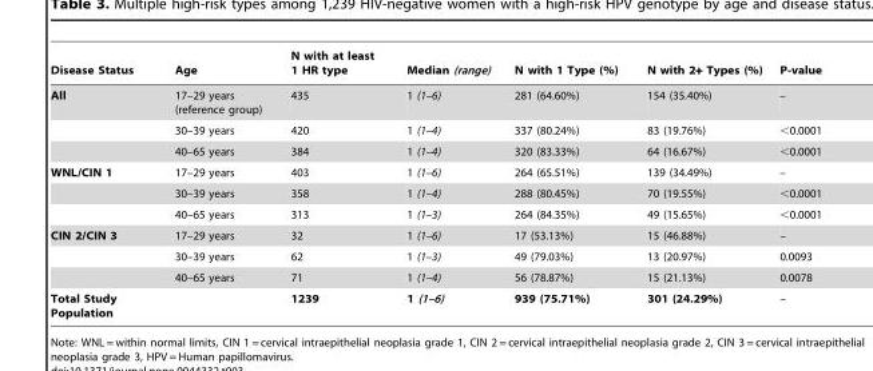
<table><thead><tr><td>Disease Status</td><td>Age</td><td>N with at least 1 HR type</td><td>Median (range)</td><td>N with 1 Type (%)</td><td>N with 2+ Types (%)</td><td>P-value</td></tr></thead><tbody><tr><td rowspan="3">All</td><td>17–29 years (reference group)</td><td>435</td><td>1 (1–6)</td><td>281 (64.60%)</td><td>154 (35.40%)</td><td>–</td></tr><tr><td>30–39 years</td><td>420</td><td>1 (1–4)</td><td>337 (80.24%)</td><td>83 (19.76%)</td><td>&lt;0.0001</td></tr><tr><td>40–65 years</td><td>384</td><td>1 (1–4)</td><td>320 (83.33%)</td><td>64 (16.67%)</td><td>&lt;0.0001</td></tr><tr><td rowspan="3">WNL/CIN 1</td><td>17–29 years</td><td>403</td><td>1 (1–6)</td><td>264 (65.51%)</td><td>139 (34.49%)</td><td>–</td></tr><tr><td>30–39 years</td><td>358</td><td>1 (1–4)</td><td>288 (80.45%)</td><td>70 (19.55%)</td><td>&lt;0.0001</td></tr><tr><td>40–65 years</td><td>313</td><td>1 (1–3)</td><td>264 (84.35%)</td><td>49 (15.65%)</td><td>&lt;0.0001</td></tr><tr><td rowspan="3">CIN 2/CIN 3</td><td>17–29 years</td><td>32</td><td>1 (1–6)</td><td>17 (53.13%)</td><td>15 (46.88%)</td><td>–</td></tr><tr><td>30–39 years</td><td>62</td><td>1 (1–3)</td><td>49 (79.03%)</td><td>13 (20.97%)</td><td>0.0093</td></tr><tr><td>40–65 years</td><td>71</td><td>1 (1–4)</td><td>56 (78.87%)</td><td>15 (21.13%)</td><td>0.0078</td></tr><tr><td>Total Study Population</td><td></td><td>1239</td><td>1 (1–6)</td><td>939 (75.71%)</td><td>301 (24.29%)</td><td>–</td></tr></tbody></table>